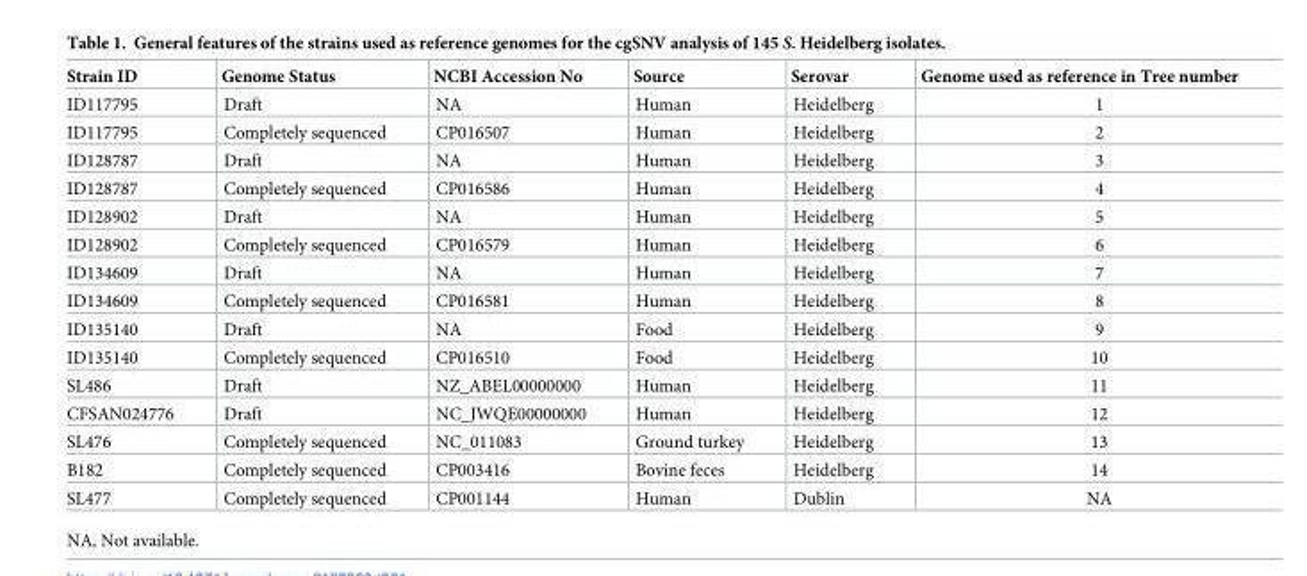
<table><thead><tr><td>Strain ID</td><td>Genome Status</td><td>NCBI Accession No</td><td>Source</td><td>Serovar</td><td>Genome used as reference in Tree number</td></tr></thead><tbody><tr><td>ID117795</td><td>Draft</td><td>NA</td><td>Human</td><td>Heidelberg</td><td>1</td></tr><tr><td>ID117795</td><td>Completely sequenced</td><td>CP016507</td><td>Human</td><td>Heidelberg</td><td>2</td></tr><tr><td>ID128787</td><td>Draft</td><td>NA</td><td>Human</td><td>Heidelberg</td><td>3</td></tr><tr><td>ID128787</td><td>Completely sequenced</td><td>CP016586</td><td>Human</td><td>Heidelberg</td><td>4</td></tr><tr><td>ID128902</td><td>Draft</td><td>NA</td><td>Human</td><td>Heidelberg</td><td>5</td></tr><tr><td>ID128902</td><td>Completely sequenced</td><td>CP016579</td><td>Human</td><td>Heidelberg</td><td>6</td></tr><tr><td>ID134609</td><td>Draft</td><td>NA</td><td>Human</td><td>Heidelberg</td><td>7</td></tr><tr><td>ID134609</td><td>Completely sequenced</td><td>CP016581</td><td>Human</td><td>Heidelberg</td><td>8</td></tr><tr><td>ID135140</td><td>Draft</td><td>NA</td><td>Food</td><td>Heidelberg</td><td>9</td></tr><tr><td>ID135140</td><td>Completely sequenced</td><td>CP016510</td><td>Food</td><td>Heidelberg</td><td>10</td></tr><tr><td>SL486</td><td>Draft</td><td>NZ_ABEL00000000</td><td>Human</td><td>Heidelberg</td><td>11</td></tr><tr><td>CFSAN024776</td><td>Draft</td><td>NC_JWQE00000000</td><td>Human</td><td>Heidelberg</td><td>12</td></tr><tr><td>SL476</td><td>Completely sequenced</td><td>NC_011083</td><td>Ground turkey</td><td>Heidelberg</td><td>13</td></tr><tr><td>B182</td><td>Completely sequenced</td><td>CP003416</td><td>Bovine feces</td><td>Heidelberg</td><td>14</td></tr><tr><td>SL477</td><td>Completely sequenced</td><td>CP001144</td><td>Human</td><td>Dublin</td><td>NA</td></tr></tbody></table>